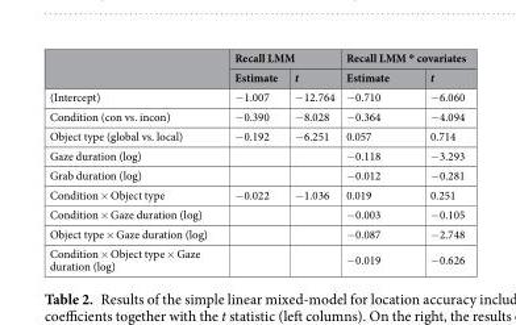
<table><thead><tr><td rowspan="2"></td><td colspan="2">Recall LMM</td><td colspan="2">Recall LMM * covariates</td></tr><tr><td>Estimate</td><td>t</td><td>Estimate</td><td>t</td></tr></thead><tbody><tr><td>(Intercept)</td><td>−1.007</td><td>−12.764</td><td>−0.710</td><td>−6.060</td></tr><tr><td>Condition (con vs. incon)</td><td>−0.390</td><td>−8.028</td><td>−0.364</td><td>−4.094</td></tr><tr><td>Object type (global vs. local)</td><td>−0.192</td><td>−6.251</td><td>0.057</td><td>0.714</td></tr><tr><td>Gaze duration (log)</td><td></td><td></td><td>−0.118</td><td>−3.293</td></tr><tr><td>Grab duration (log)</td><td></td><td></td><td>−0.012</td><td>−0.281</td></tr><tr><td>Condition × Object type</td><td>−0.022</td><td>−1.036</td><td>0.019</td><td>0.251</td></tr><tr><td>Condition × Gaze duration (log)</td><td></td><td></td><td>−0.003</td><td>−0.105</td></tr><tr><td>Object type × Gaze duration (log)</td><td></td><td></td><td>−0.087</td><td>−2.748</td></tr><tr><td>Condition × Object type × Gaze duration (log)</td><td></td><td></td><td>−0.019</td><td>−0.626</td></tr></tbody></table>